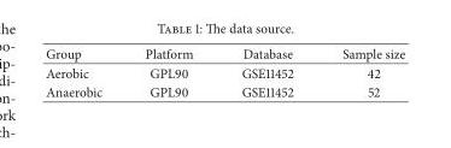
<table><thead><tr><td>Group</td><td>Platform</td><td>Database</td><td>Sample size</td></tr></thead><tbody><tr><td>Aerobic</td><td>GPL90</td><td>GSE11452</td><td>42</td></tr><tr><td>Anaerobic</td><td>GPL90</td><td>GSE11452</td><td>52</td></tr></tbody></table>